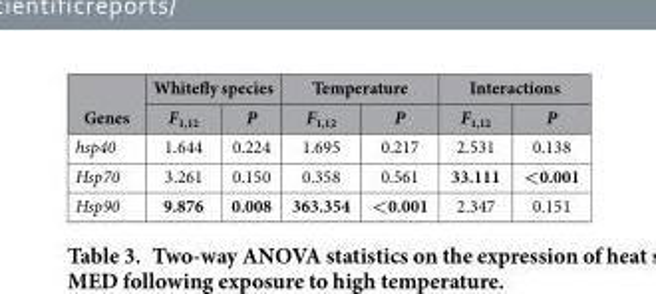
<table><thead><tr><td rowspan="2">Genes</td><td colspan="2">Whitefly species</td><td colspan="2">Temperature</td><td colspan="2">Interactions</td></tr><tr><td>F<sub>1,12</sub></td><td>P</td><td>F<sub>1,12</sub></td><td>P</td><td>F<sub>1,12</sub></td><td>P</td></tr></thead><tbody><tr><td>hsp40</td><td>1.644</td><td>0.224</td><td>1.695</td><td>0.217</td><td>2.531</td><td>0.138</td></tr><tr><td>Hsp70</td><td>3.261</td><td>0.150</td><td>0.358</td><td>0.561</td><td>33.111</td><td>&lt;0.001</td></tr><tr><td>Hsp90</td><td>9.876</td><td>0.008</td><td>363.354</td><td>&lt;0.001</td><td>2.347</td><td>0.151</td></tr></tbody></table>